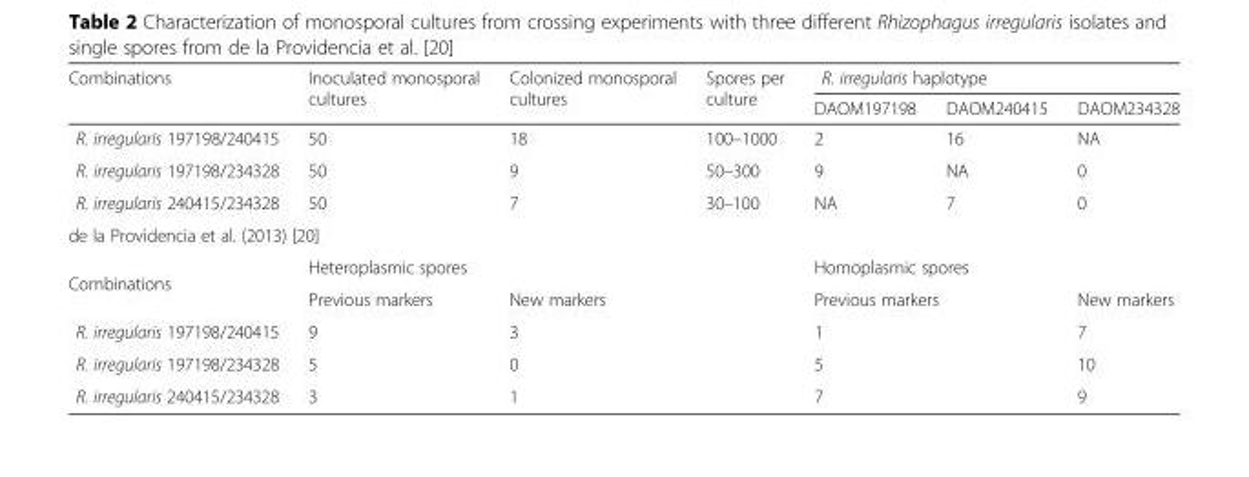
<table><thead><tr><td rowspan="2">Combinations</td><td rowspan="2">Inoculated monosporal cultures</td><td rowspan="2">Colonized monosporal cultures</td><td rowspan="2">Spores per culture</td><td colspan="3">R. irregularis haplotype</td></tr><tr><td>DAOM197198</td><td>DAOM240415</td><td>DAOM234328</td></tr></thead><tbody><tr><td>R. irregularis 197198/240415</td><td>50</td><td>18</td><td>100–1000</td><td>2</td><td>16</td><td>NA</td></tr><tr><td>R. irregularis 197198/234328</td><td>50</td><td>9</td><td>50–300</td><td>9</td><td>NA</td><td>0</td></tr><tr><td>R. irregularis 240415/234328</td><td>50</td><td>7</td><td>30–100</td><td>NA</td><td>7</td><td>0</td></tr><tr><td colspan="7">de la Providencia et al. (2013) [20]</td></tr><tr><td rowspan="2">Combinations</td><td colspan="3">Heteroplasmic spores</td><td colspan="3">Homoplasmic spores</td></tr><tr><td>Previous markers</td><td colspan="2">New markers</td><td colspan="2">Previous markers</td><td>New markers</td></tr><tr><td>R. irregularis 197198/240415</td><td>9</td><td colspan="2">3</td><td colspan="2">1</td><td>7</td></tr><tr><td>R. irregularis 197198/234328</td><td>5</td><td colspan="2">0</td><td colspan="2">5</td><td>10</td></tr><tr><td>R. irregularis 240415/234328</td><td>3</td><td colspan="2">1</td><td colspan="2">7</td><td>9</td></tr></tbody></table>